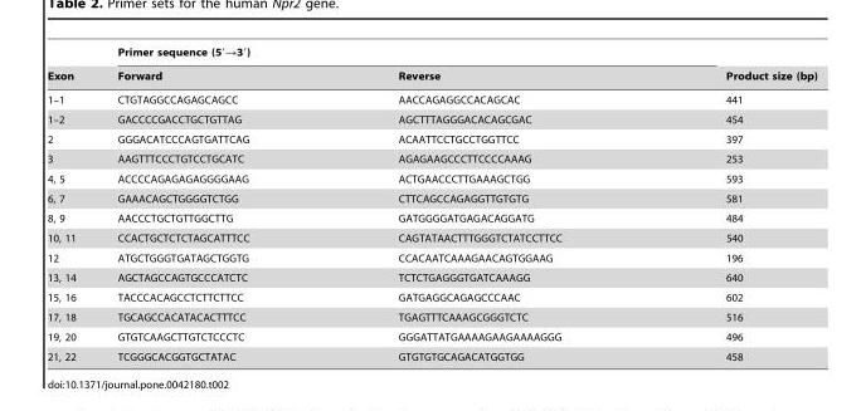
<table><thead><tr><td rowspan="2">Exon</td><td colspan="2">Primer sequence (5′→3′)</td><td rowspan="2">Product size (bp)</td></tr><tr><td>Forward</td><td>Reverse</td></tr></thead><tbody><tr><td>1–1</td><td>CTGTAGGCCAGAGCAGCC</td><td>AACCAGAGGCCACAGCAC</td><td>441</td></tr><tr><td>1–2</td><td>GACCCCGACCTGCTGTTAG</td><td>AGCTTTAGGGACACAGCGAC</td><td>454</td></tr><tr><td>2</td><td>GGGACATCCCAGTGATTCAG</td><td>ACAATTCCTGCCTGGTTCC</td><td>397</td></tr><tr><td>3</td><td>AAGTTTCCCTGTCCTGCATC</td><td>AGAGAAGCCCTTCCCCAAAG</td><td>253</td></tr><tr><td>4, 5</td><td>ACCCCAGAGAGAGGGGAAG</td><td>ACTGAACCCTTGAAAGCTGG</td><td>593</td></tr><tr><td>6, 7</td><td>GAAACAGCTGGGGTCTGG</td><td>CTTCAGCCAGAGGTTGTGTG</td><td>581</td></tr><tr><td>8, 9</td><td>AACCCTGCTGTTGGCTTG</td><td>GATGGGGATGAGACAGGATG</td><td>484</td></tr><tr><td>10, 11</td><td>CCACTGCTCTCTAGCATTTCC</td><td>CAGTATAACTTTGGGTCTATCCTTCC</td><td>540</td></tr><tr><td>12</td><td>ATGCTGGGTGATAGCTGGTG</td><td>CCACAATCAAAGAACAGTGGAAG</td><td>196</td></tr><tr><td>13, 14</td><td>AGCTAGCCAGTGCCCATCTC</td><td>TCTCTGAGGGTGATCAAAGG</td><td>640</td></tr><tr><td>15, 16</td><td>TACCCACAGCCTCTTCTTCC</td><td>GATGAGGCAGAGCCCAAC</td><td>602</td></tr><tr><td>17, 18</td><td>TGCAGCCACATACACTTTCC</td><td>TGAGTTTCAAAGCGGGTCTC</td><td>516</td></tr><tr><td>19, 20</td><td>GTGTCAAGCTTGTCTCCCTC</td><td>GGGATTATGAAAAGAAGAAAAGGG</td><td>496</td></tr><tr><td>21, 22</td><td>TCGGGCACGGTGCTATAC</td><td>GTGTGTGCAGACATGGTGG</td><td>458</td></tr></tbody></table>